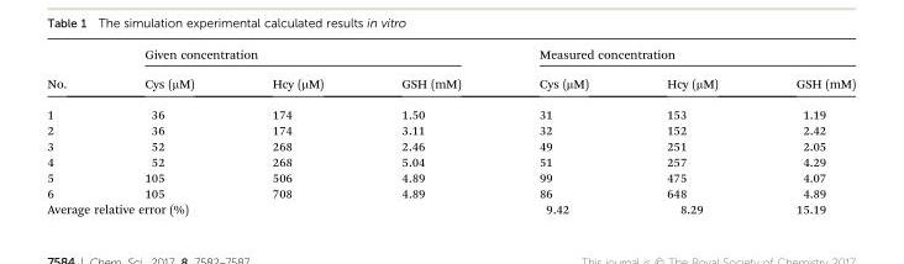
<table><thead><tr><td rowspan="2">No.</td><td colspan="3">Given concentration</td><td colspan="3">Measured concentration</td></tr><tr><td>Cys (μM)</td><td>Hcy (μM)</td><td>GSH (mM)</td><td>Cys (μM)</td><td>Hcy (μM)</td><td>GSH (mM)</td></tr></thead><tbody><tr><td>1</td><td>36</td><td>174</td><td>1.50</td><td>31</td><td>153</td><td>1.19</td></tr><tr><td>2</td><td>36</td><td>174</td><td>3.11</td><td>32</td><td>152</td><td>2.42</td></tr><tr><td>3</td><td>52</td><td>268</td><td>2.46</td><td>49</td><td>251</td><td>2.05</td></tr><tr><td>4</td><td>52</td><td>268</td><td>5.04</td><td>51</td><td>257</td><td>4.29</td></tr><tr><td>5</td><td>105</td><td>506</td><td>4.89</td><td>99</td><td>475</td><td>4.07</td></tr><tr><td>6</td><td>105</td><td>708</td><td>4.89</td><td>86</td><td>648</td><td>4.89</td></tr><tr><td colspan="4">Average relative error (%)</td><td>9.42</td><td>8.29</td><td>15.19</td></tr></tbody></table>